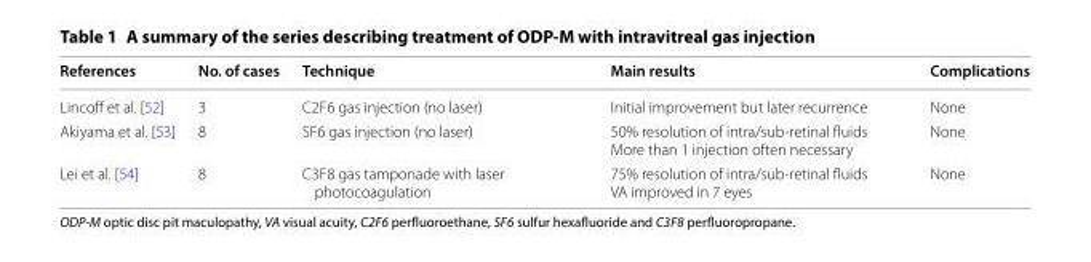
<table><thead><tr><td>References</td><td>No. of cases</td><td>Technique</td><td>Main results</td><td>Complications</td></tr></thead><tbody><tr><td>Lincoff et al. [52]</td><td>3</td><td>C2F6 gas injection (no laser)</td><td>Initial improvement but later recurrence</td><td>None</td></tr><tr><td>Akiyama et al. [53]</td><td>8</td><td>SF6 gas injection (no laser)</td><td>50% resolution of intra/sub-retinal fluids More than 1 injection often necessary</td><td>None</td></tr><tr><td>Lei et al. [54]</td><td>8</td><td>C3F8 gas tamponade with laser photocoagulation</td><td>75% resolution of intra/sub-retinal fluids VA improved in 7 eyes</td><td>None</td></tr></tbody></table>